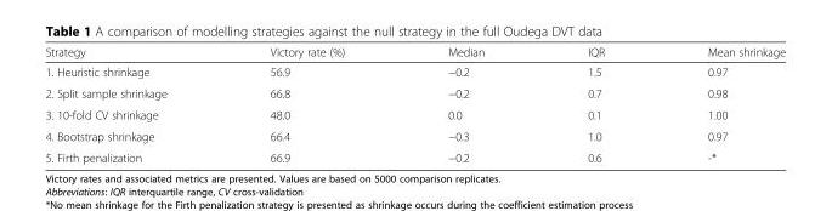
<table><thead><tr><td>Strategy</td><td>Victory rate (%)</td><td>Median</td><td>IQR</td><td>Mean shrinkage</td></tr></thead><tbody><tr><td>1. Heuristic shrinkage</td><td>56.9</td><td>−0.2</td><td>1.5</td><td>0.97</td></tr><tr><td>2. Split sample shrinkage</td><td>66.8</td><td>−0.2</td><td>0.7</td><td>0.98</td></tr><tr><td>3. 10-fold CV shrinkage</td><td>48.0</td><td>0.0</td><td>0.1</td><td>1.00</td></tr><tr><td>4. Bootstrap shrinkage</td><td>66.4</td><td>−0.3</td><td>1.0</td><td>0.97</td></tr><tr><td>5. Firth penalization</td><td>66.9</td><td>−0.2</td><td>0.6</td><td>-*</td></tr></tbody></table>